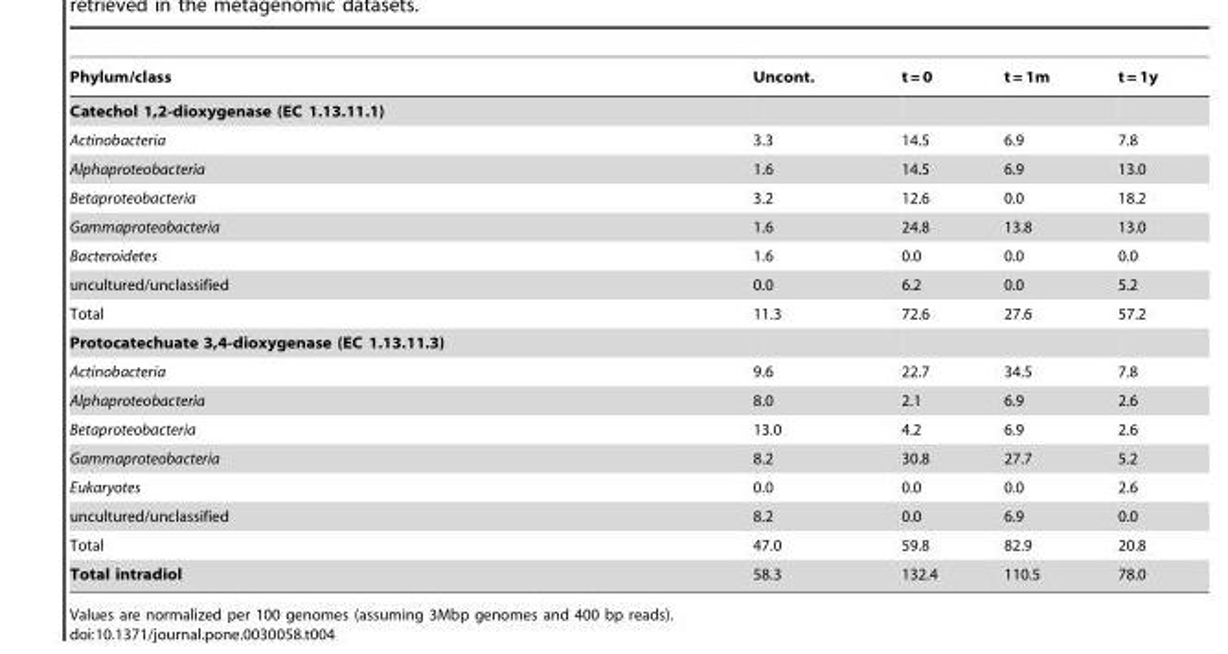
<table><thead><tr><td>Phylum/class</td><td>Uncont.</td><td>t = 0</td><td>t = 1m</td><td>t = 1y</td></tr></thead><tbody><tr><td colspan="5">Catechol 1,2-dioxygenase (EC 1.13.11.1)</td></tr><tr><td>Actinobacteria</td><td>3.3</td><td>14.5</td><td>6.9</td><td>7.8</td></tr><tr><td>Alphaproteobacteria</td><td>1.6</td><td>14.5</td><td>6.9</td><td>13.0</td></tr><tr><td>Betaproteobacteria</td><td>3.2</td><td>12.6</td><td>0.0</td><td>18.2</td></tr><tr><td>Gammaproteobacteria</td><td>1.6</td><td>24.8</td><td>13.8</td><td>13.0</td></tr><tr><td>Bacteroidetes</td><td>1.6</td><td>0.0</td><td>0.0</td><td>0.0</td></tr><tr><td>uncultured/unclassified</td><td>0.0</td><td>6.2</td><td>0.0</td><td>5.2</td></tr><tr><td>Total</td><td>11.3</td><td>72.6</td><td>27.6</td><td>57.2</td></tr><tr><td colspan="5">Protocatechuate 3,4-dioxygenase (EC 1.13.11.3)</td></tr><tr><td>Actinobacteria</td><td>9.6</td><td>22.7</td><td>34.5</td><td>7.8</td></tr><tr><td>Alphaproteobacteria</td><td>8.0</td><td>2.1</td><td>6.9</td><td>2.6</td></tr><tr><td>Betaproteobacteria</td><td>13.0</td><td>4.2</td><td>6.9</td><td>2.6</td></tr><tr><td>Gammaproteobacteria</td><td>8.2</td><td>30.8</td><td>27.7</td><td>5.2</td></tr><tr><td>Eukaryotes</td><td>0.0</td><td>0.0</td><td>0.0</td><td>2.6</td></tr><tr><td>uncultured/unclassified</td><td>8.2</td><td>0.0</td><td>6.9</td><td>0.0</td></tr><tr><td>Total</td><td>47.0</td><td>59.8</td><td>82.9</td><td>20.8</td></tr><tr><td>Total intradiol</td><td>58.3</td><td>132.4</td><td>110.5</td><td>78.0</td></tr></tbody></table>